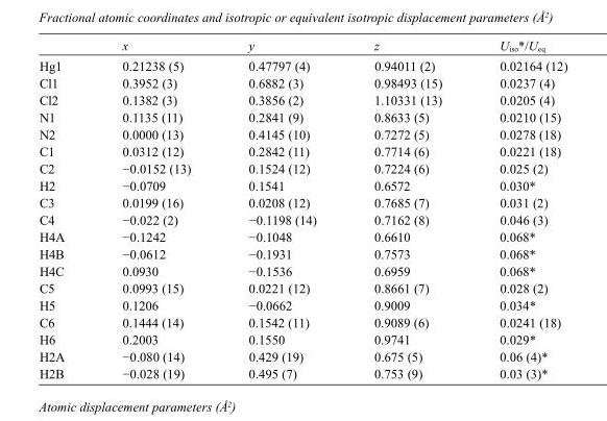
<table><thead><tr><td></td><td>x</td><td>y</td><td>z</td><td>U<sub>iso</sub>*/U<sub>eq</sub></td></tr></thead><tbody><tr><td>Hg1</td><td>0.21238 (5)</td><td>0.47797 (4)</td><td>0.94011 (2)</td><td>0.02164 (12)</td></tr><tr><td>Cl1</td><td>0.3952 (3)</td><td>0.6882 (3)</td><td>0.98493 (15)</td><td>0.0237 (4)</td></tr><tr><td>Cl2</td><td>0.1382 (3)</td><td>0.3856 (2)</td><td>1.10331 (13)</td><td>0.0205 (4)</td></tr><tr><td>N1</td><td>0.1135 (11)</td><td>0.2841 (9)</td><td>0.8633 (5)</td><td>0.0210 (15)</td></tr><tr><td>N2</td><td>0.0000 (13)</td><td>0.4145 (10)</td><td>0.7272 (5)</td><td>0.0278 (18)</td></tr><tr><td>C1</td><td>0.0312 (12)</td><td>0.2842 (11)</td><td>0.7714 (6)</td><td>0.0221 (18)</td></tr><tr><td>C2</td><td>−0.0152 (13)</td><td>0.1524 (12)</td><td>0.7224 (6)</td><td>0.025 (2)</td></tr><tr><td>H2</td><td>−0.0709</td><td>0.1541</td><td>0.6572</td><td>0.030*</td></tr><tr><td>C3</td><td>0.0199 (16)</td><td>0.0208 (12)</td><td>0.7685 (7)</td><td>0.031 (2)</td></tr><tr><td>C4</td><td>−0.022 (2)</td><td>−0.1198 (14)</td><td>0.7162 (8)</td><td>0.046 (3)</td></tr><tr><td>H4A</td><td>−0.1242</td><td>−0.1048</td><td>0.6610</td><td>0.068*</td></tr><tr><td>H4B</td><td>−0.0612</td><td>−0.1931</td><td>0.7573</td><td>0.068*</td></tr><tr><td>H4C</td><td>0.0930</td><td>−0.1536</td><td>0.6959</td><td>0.068*</td></tr><tr><td>C5</td><td>0.0993 (15)</td><td>0.0221 (12)</td><td>0.8661 (7)</td><td>0.028 (2)</td></tr><tr><td>H5</td><td>0.1206</td><td>−0.0662</td><td>0.9009</td><td>0.034*</td></tr><tr><td>C6</td><td>0.1444 (14)</td><td>0.1542 (11)</td><td>0.9089 (6)</td><td>0.0241 (18)</td></tr><tr><td>H6</td><td>0.2003</td><td>0.1550</td><td>0.9741</td><td>0.029*</td></tr><tr><td>H2A</td><td>−0.080 (14)</td><td>0.429 (19)</td><td>0.675 (5)</td><td>0.06 (4)*</td></tr><tr><td>H2B</td><td>−0.028 (19)</td><td>0.495 (7)</td><td>0.753 (9)</td><td>0.03 (3)*</td></tr></tbody></table>